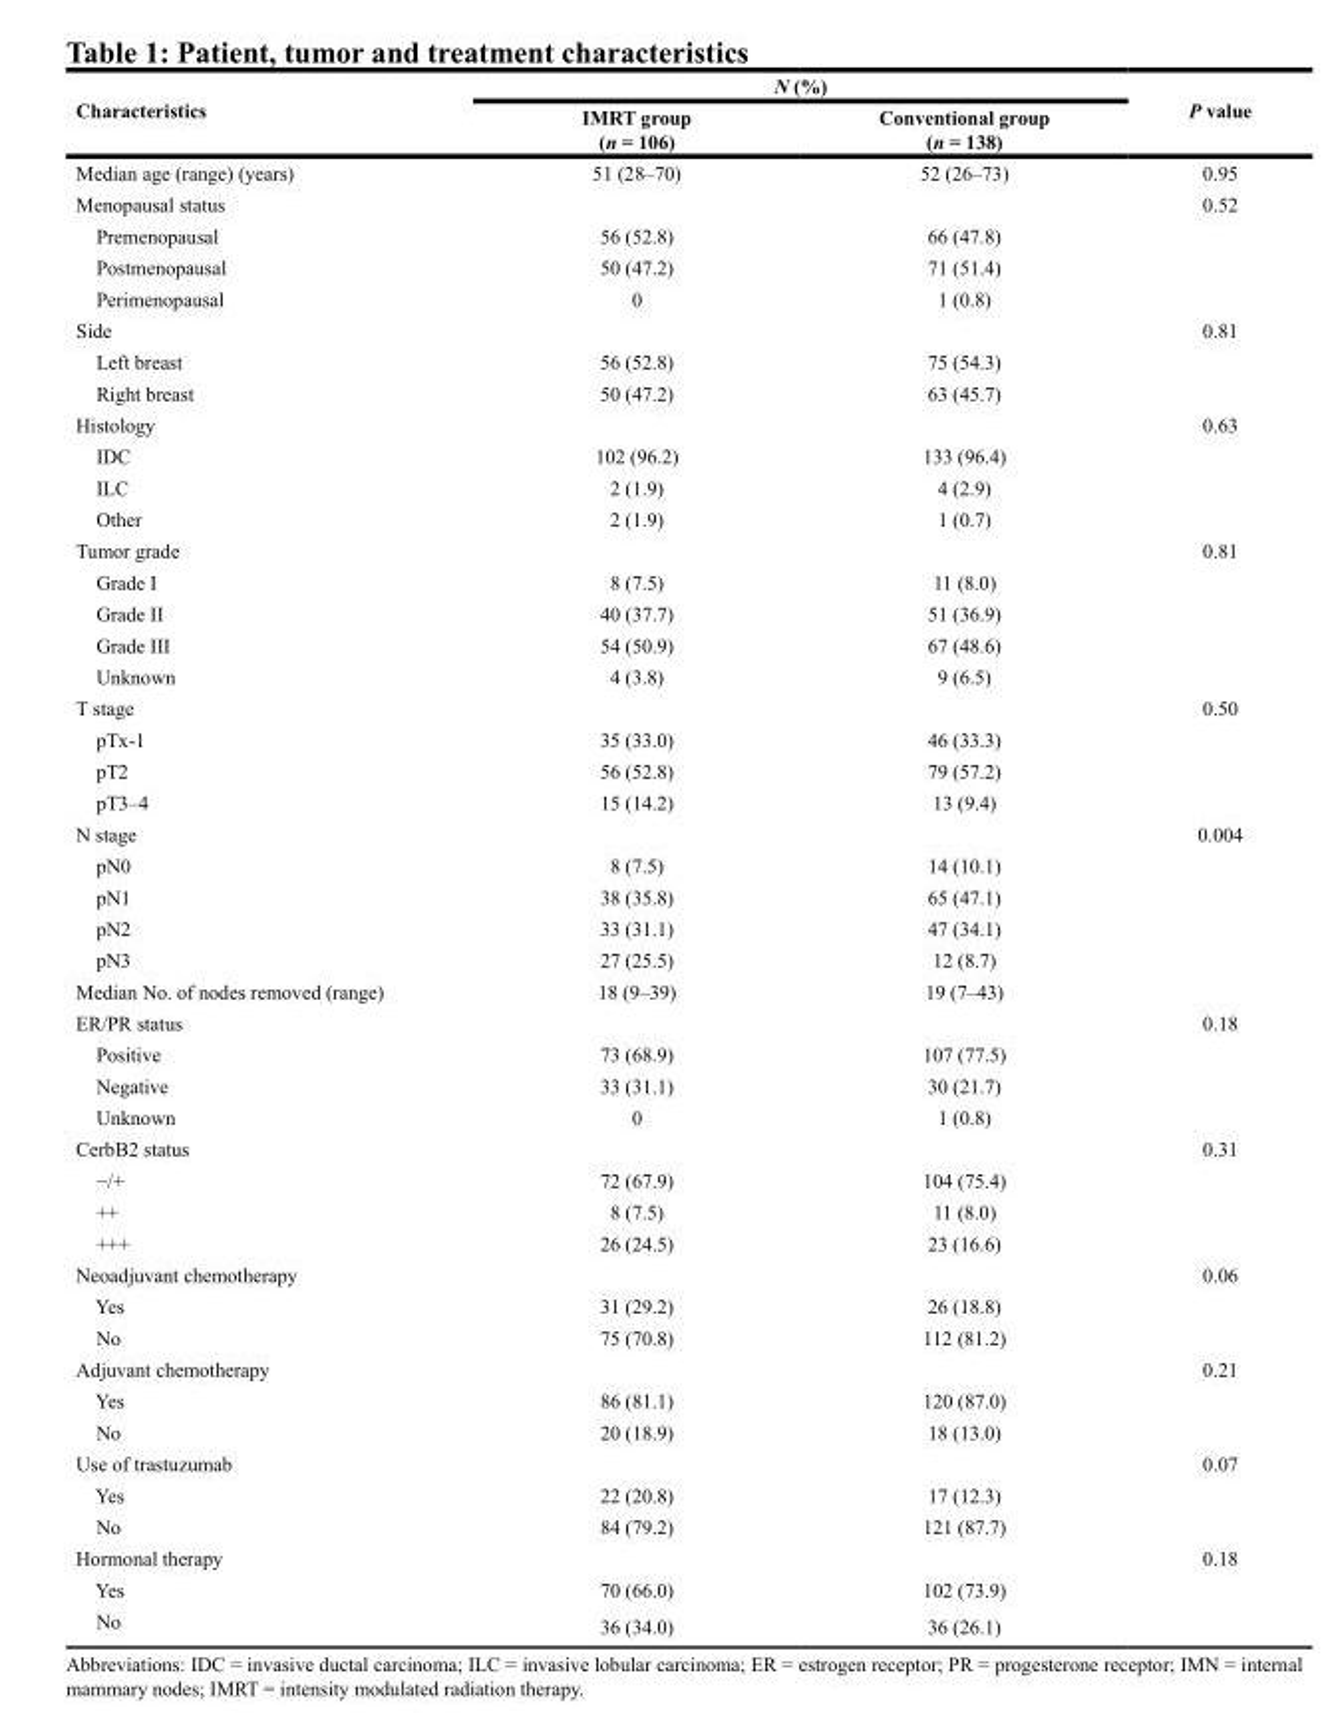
<table><thead><tr><td rowspan="2">Characteristics</td><td colspan="2">N (%)</td><td rowspan="2">P value</td></tr><tr><td>IMRT group (n = 106)</td><td>Conventional group (n = 138)</td></tr></thead><tbody><tr><td>Median age (range) (years)</td><td>51 (28–70)</td><td>52 (26–73)</td><td>0.95</td></tr><tr><td>Menopausal status</td><td></td><td></td><td>0.52</td></tr><tr><td>Premenopausal</td><td>56 (52.8)</td><td>66 (47.8)</td><td></td></tr><tr><td>Postmenopausal</td><td>50 (47.2)</td><td>71 (51.4)</td><td></td></tr><tr><td>Perimenopausal</td><td>0</td><td>1 (0.8)</td><td></td></tr><tr><td>Side</td><td></td><td></td><td>0.81</td></tr><tr><td>Left breast</td><td>56 (52.8)</td><td>75 (54.3)</td><td></td></tr><tr><td>Right breast</td><td>50 (47.2)</td><td>63 (45.7)</td><td></td></tr><tr><td>Histology</td><td></td><td></td><td>0.63</td></tr><tr><td>IDC</td><td>102 (96.2)</td><td>133 (96.4)</td><td></td></tr><tr><td>ILC</td><td>2 (1.9)</td><td>4 (2.9)</td><td></td></tr><tr><td>Other</td><td>2 (1.9)</td><td>1 (0.7)</td><td></td></tr><tr><td>Tumor grade</td><td></td><td></td><td>0.81</td></tr><tr><td>Grade I</td><td>8 (7.5)</td><td>11 (8.0)</td><td></td></tr><tr><td>Grade II</td><td>40 (37.7)</td><td>51 (36.9)</td><td></td></tr><tr><td>Grade III</td><td>54 (50.9)</td><td>67 (48.6)</td><td></td></tr><tr><td>Unknown</td><td>4 (3.8)</td><td>9 (6.5)</td><td></td></tr><tr><td>T stage</td><td></td><td></td><td>0.50</td></tr><tr><td>pTx-1</td><td>35 (33.0)</td><td>46 (33.3)</td><td></td></tr><tr><td>pT2</td><td>56 (52.8)</td><td>79 (57.2)</td><td></td></tr><tr><td>pT3–4</td><td>15 (14.2)</td><td>13 (9.4)</td><td></td></tr><tr><td>N stage</td><td></td><td></td><td>0.004</td></tr><tr><td>pN0</td><td>8 (7.5)</td><td>14 (10.1)</td><td></td></tr><tr><td>pN1</td><td>38 (35.8)</td><td>65 (47.1)</td><td></td></tr><tr><td>pN2</td><td>33 (31.1)</td><td>47 (34.1)</td><td></td></tr><tr><td>pN3</td><td>27 (25.5)</td><td>12 (8.7)</td><td></td></tr><tr><td>Median No. of nodes removed (range)</td><td>18 (9–39)</td><td>19 (7–43)</td><td></td></tr><tr><td>ER/PR status</td><td></td><td></td><td>0.18</td></tr><tr><td>Positive</td><td>73 (68.9)</td><td>107 (77.5)</td><td></td></tr><tr><td>Negative</td><td>33 (31.1)</td><td>30 (21.7)</td><td></td></tr><tr><td>Unknown</td><td>0</td><td>1 (0.8)</td><td></td></tr><tr><td>CerbB2 status</td><td></td><td></td><td>0.31</td></tr><tr><td>−/+</td><td>72 (67.9)</td><td>104 (75.4)</td><td></td></tr><tr><td>++</td><td>8 (7.5)</td><td>11 (8.0)</td><td></td></tr><tr><td>+++</td><td>26 (24.5)</td><td>23 (16.6)</td><td></td></tr><tr><td>Neoadjuvant chemotherapy</td><td></td><td></td><td>0.06</td></tr><tr><td>Yes</td><td>31 (29.2)</td><td>26 (18.8)</td><td></td></tr><tr><td>No</td><td>75 (70.8)</td><td>112 (81.2)</td><td></td></tr><tr><td>Adjuvant chemotherapy</td><td></td><td></td><td>0.21</td></tr><tr><td>Yes</td><td>86 (81.1)</td><td>120 (87.0)</td><td></td></tr><tr><td>No</td><td>20 (18.9)</td><td>18 (13.0)</td><td></td></tr><tr><td>Use of trastuzumab</td><td></td><td></td><td>0.07</td></tr><tr><td>Yes</td><td>22 (20.8)</td><td>17 (12.3)</td><td></td></tr><tr><td>No</td><td>84 (79.2)</td><td>121 (87.7)</td><td></td></tr><tr><td>Hormonal therapy</td><td></td><td></td><td>0.18</td></tr><tr><td>Yes</td><td>70 (66.0)</td><td>102 (73.9)</td><td></td></tr><tr><td>No</td><td>36 (34.0)</td><td>36 (26.1)</td><td></td></tr></tbody></table>